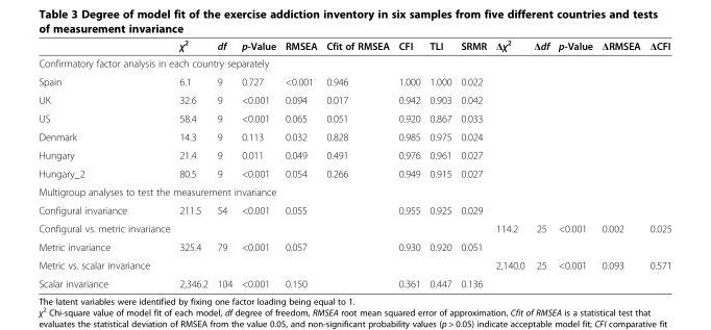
<table><thead><tr><td></td><td>χ<sup>2</sup></td><td>df</td><td>p-Value</td><td>RMSEA</td><td>Cfit of RMSEA</td><td>CFI</td><td>TLI</td><td>SRMR</td><td>Δχ<sup>2</sup></td><td>Δdf</td><td>p-Value</td><td>ΔRMSEA</td><td>ΔCFI</td></tr></thead><tbody><tr><td colspan="14">Confirmatory factor analysis in each country separately</td></tr><tr><td>Spain</td><td>6.1</td><td>9</td><td>0.727</td><td>&lt;0.001</td><td>0.946</td><td>1.000</td><td>1.000</td><td>0.022</td><td></td><td></td><td></td><td></td><td></td></tr><tr><td>UK</td><td>32.6</td><td>9</td><td>&lt;0.001</td><td>0.094</td><td>0.017</td><td>0.942</td><td>0.903</td><td>0.042</td><td></td><td></td><td></td><td></td><td></td></tr><tr><td>US</td><td>58.4</td><td>9</td><td>&lt;0.001</td><td>0.065</td><td>0.051</td><td>0.920</td><td>0.867</td><td>0.033</td><td></td><td></td><td></td><td></td><td></td></tr><tr><td>Denmark</td><td>14.3</td><td>9</td><td>0.113</td><td>0.032</td><td>0.828</td><td>0.985</td><td>0.975</td><td>0.024</td><td></td><td></td><td></td><td></td><td></td></tr><tr><td>Hungary</td><td>21.4</td><td>9</td><td>0.011</td><td>0.049</td><td>0.491</td><td>0.976</td><td>0.961</td><td>0.027</td><td></td><td></td><td></td><td></td><td></td></tr><tr><td>Hungary_2</td><td>80.5</td><td>9</td><td>&lt;0.001</td><td>0.054</td><td>0.266</td><td>0.949</td><td>0.915</td><td>0.027</td><td></td><td></td><td></td><td></td><td></td></tr><tr><td colspan="14">Multigroup analyses to test the measurement invariance</td></tr><tr><td>Configural invariance</td><td>211.5</td><td>54</td><td>&lt;0.001</td><td>0.055</td><td></td><td>0.955</td><td>0.925</td><td>0.029</td><td></td><td></td><td></td><td></td><td></td></tr><tr><td>Configural vs. metric invariance</td><td></td><td></td><td></td><td></td><td></td><td></td><td></td><td></td><td>114.2</td><td>25</td><td>&lt;0.001</td><td>0.002</td><td>0.025</td></tr><tr><td>Metric invariance</td><td>325.4</td><td>79</td><td>&lt;0.001</td><td>0.057</td><td></td><td>0.930</td><td>0.920</td><td>0.051</td><td></td><td></td><td></td><td></td><td></td></tr><tr><td>Metric vs. scalar invariance</td><td></td><td></td><td></td><td></td><td></td><td></td><td></td><td></td><td>2,140.0</td><td>25</td><td>&lt;0.001</td><td>0.093</td><td>0.571</td></tr><tr><td>Scalar invariance</td><td>2,346.2</td><td>104</td><td>&lt;0.001</td><td>0.150</td><td></td><td>0.361</td><td>0.447</td><td>0.136</td><td></td><td></td><td></td><td></td><td></td></tr></tbody></table>